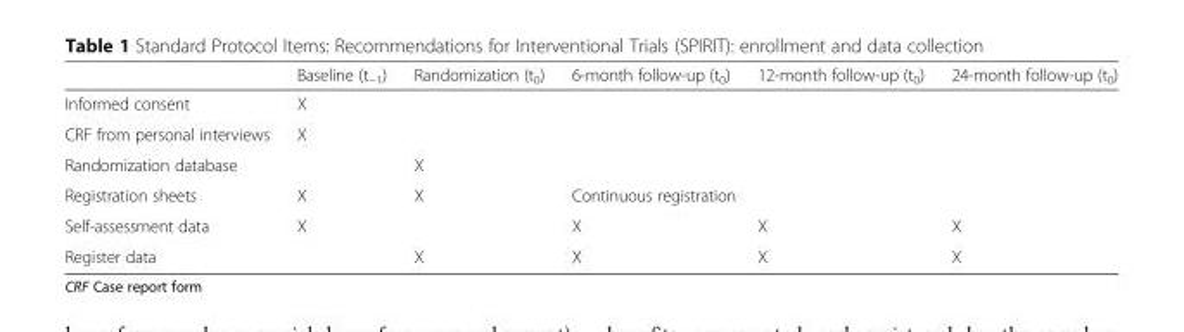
<table><thead><tr><td></td><td>Baseline (t<sub>−1</sub>)</td><td>Randomization (t<sub>0</sub>)</td><td>6-month follow-up (t<sub>0</sub>)</td><td>12-month follow-up (t<sub>0</sub>)</td><td>24-month follow-up (t<sub>0</sub>)</td></tr></thead><tbody><tr><td>Informed consent</td><td>X</td><td></td><td></td><td></td><td></td></tr><tr><td>CRF from personal interviews</td><td>X</td><td></td><td></td><td></td><td></td></tr><tr><td>Randomization database</td><td></td><td>X</td><td></td><td></td><td></td></tr><tr><td>Registration sheets</td><td>X</td><td>X</td><td colspan="3">Continuous registration</td></tr><tr><td>Self-assessment data</td><td>X</td><td></td><td>X</td><td>X</td><td>X</td></tr><tr><td>Register data</td><td></td><td>X</td><td>X</td><td>X</td><td>X</td></tr></tbody></table>